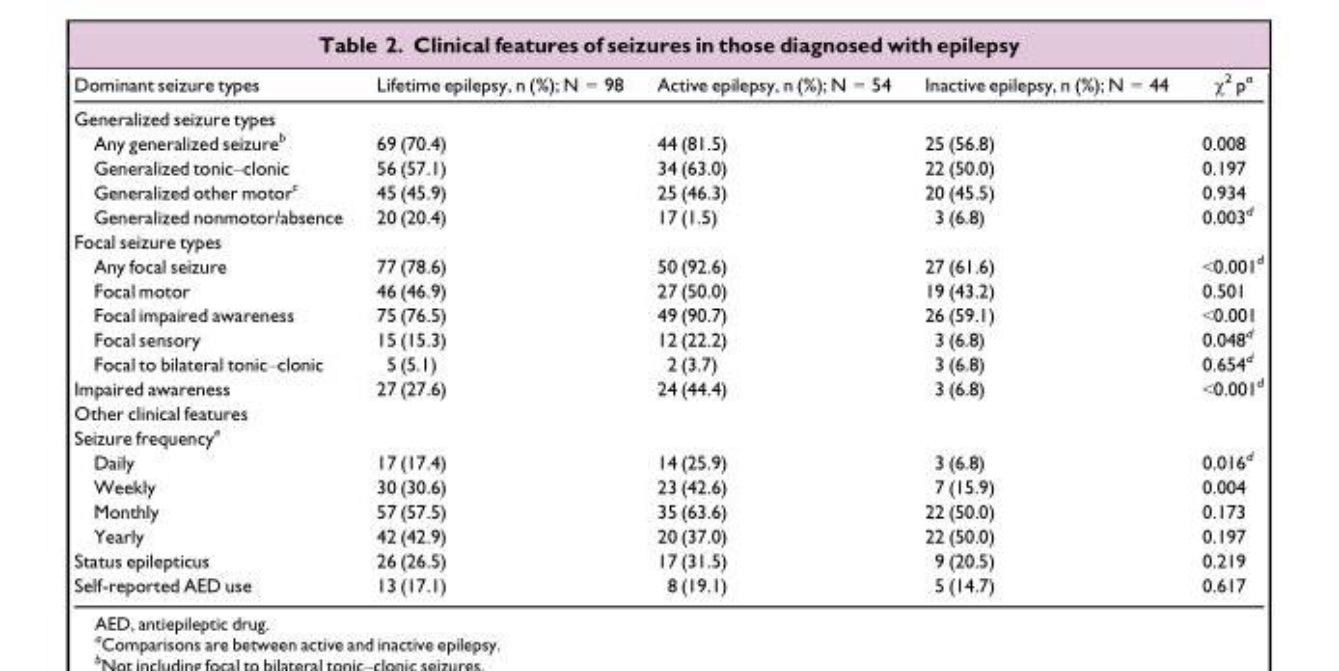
<table><thead><tr><td>Dominant seizure types</td><td>Lifetime epilepsy, n (%); N = 98</td><td>Active epilepsy, n (%); N = 54</td><td>Inactive epilepsy, n (%); N = 44</td><td>χ<sup>2</sup> p<sup>a</sup></td></tr></thead><tbody><tr><td colspan="5">Generalized seizure types</td></tr><tr><td>Any generalized seizure<sup>b</sup></td><td>69 (70.4)</td><td>44 (81.5)</td><td>25 (56.8)</td><td>0.008</td></tr><tr><td>Generalized tonic–clonic</td><td>56 (57.1)</td><td>34 (63.0)</td><td>22 (50.0)</td><td>0.197</td></tr><tr><td>Generalized other motor<sup>c</sup></td><td>45 (45.9)</td><td>25 (46.3)</td><td>20 (45.5)</td><td>0.934</td></tr><tr><td>Generalized nonmotor/absence</td><td>20 (20.4)</td><td>17 (1.5)</td><td>3 (6.8)</td><td>0.003<sup>d</sup></td></tr><tr><td colspan="5">Focal seizure types</td></tr><tr><td>Any focal seizure</td><td>77 (78.6)</td><td>50 (92.6)</td><td>27 (61.6)</td><td>&lt;0.001<sup>d</sup></td></tr><tr><td>Focal motor</td><td>46 (46.9)</td><td>27 (50.0)</td><td>19 (43.2)</td><td>0.501</td></tr><tr><td>Focal impaired awareness</td><td>75 (76.5)</td><td>49 (90.7)</td><td>26 (59.1)</td><td>&lt;0.001</td></tr><tr><td>Focal sensory</td><td>15 (15.3)</td><td>12 (22.2)</td><td>3 (6.8)</td><td>0.048<sup>d</sup></td></tr><tr><td>Focal to bilateral tonic–clonic</td><td>5 (5.1)</td><td>2 (3.7)</td><td>3 (6.8)</td><td>0.654<sup>d</sup></td></tr><tr><td>Impaired awareness</td><td>27 (27.6)</td><td>24 (44.4)</td><td>3 (6.8)</td><td>&lt;0.001<sup>d</sup></td></tr><tr><td colspan="5">Other clinical features</td></tr><tr><td colspan="5">Seizure frequency<sup>e</sup></td></tr><tr><td>Daily</td><td>17 (17.4)</td><td>14 (25.9)</td><td>3 (6.8)</td><td>0.016<sup>d</sup></td></tr><tr><td>Weekly</td><td>30 (30.6)</td><td>23 (42.6)</td><td>7 (15.9)</td><td>0.004</td></tr><tr><td>Monthly</td><td>57 (57.5)</td><td>35 (63.6)</td><td>22 (50.0)</td><td>0.173</td></tr><tr><td>Yearly</td><td>42 (42.9)</td><td>20 (37.0)</td><td>22 (50.0)</td><td>0.197</td></tr><tr><td>Status epilepticus</td><td>26 (26.5)</td><td>17 (31.5)</td><td>9 (20.5)</td><td>0.219</td></tr><tr><td>Self-reported AED use</td><td>13 (17.1)</td><td>8 (19.1)</td><td>5 (14.7)</td><td>0.617</td></tr></tbody></table>